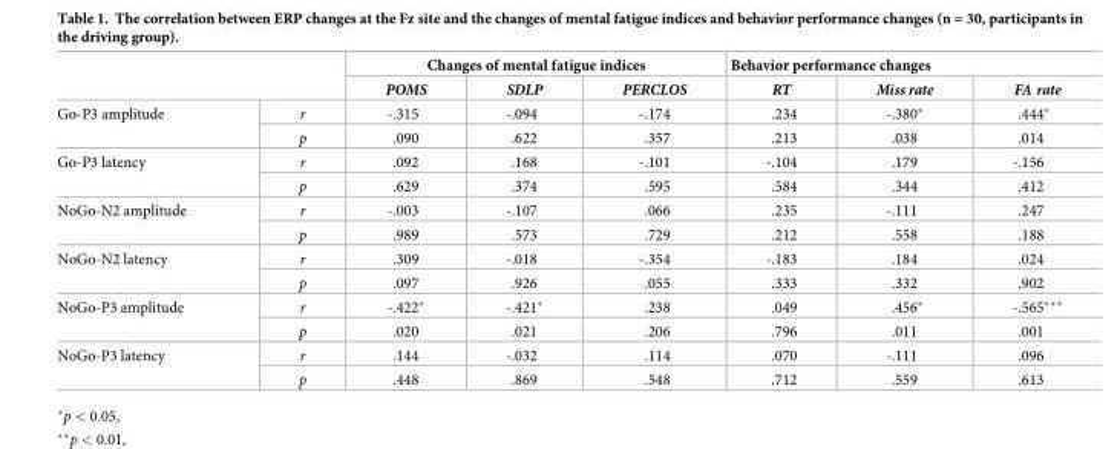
<table><thead><tr><td rowspan="2"></td><td rowspan="2"></td><td colspan="3">Changes of mental fatigue indices</td><td colspan="3">Behavior performance changes</td></tr><tr><td>POMS</td><td>SDLP</td><td>PERCLOS</td><td>RT</td><td>Miss rate</td><td>FA rate</td></tr></thead><tbody><tr><td rowspan="2">Go-P3 amplitude</td><td>r</td><td>-.315</td><td>-.094</td><td>-.174</td><td>.234</td><td>-.380*</td><td>.444*</td></tr><tr><td>p</td><td>.090</td><td>.622</td><td>.357</td><td>.213</td><td>.038</td><td>.014</td></tr><tr><td rowspan="2">Go-P3 latency</td><td>r</td><td>.092</td><td>.168</td><td>-.101</td><td>-.104</td><td>.179</td><td>-.156</td></tr><tr><td>p</td><td>.629</td><td>.374</td><td>.595</td><td>.584</td><td>.344</td><td>.412</td></tr><tr><td rowspan="2">NoGo-N2 amplitude</td><td>r</td><td>-.003</td><td>-.107</td><td>.066</td><td>.235</td><td>-.111</td><td>.247</td></tr><tr><td>p</td><td>.989</td><td>.573</td><td>.729</td><td>.212</td><td>.558</td><td>.188</td></tr><tr><td rowspan="2">NoGo-N2 latency</td><td>r</td><td>.309</td><td>-.018</td><td>-.354</td><td>-.183</td><td>.184</td><td>.024</td></tr><tr><td>p</td><td>.097</td><td>.926</td><td>.055</td><td>.333</td><td>.332</td><td>.902</td></tr><tr><td rowspan="2">NoGo-P3 amplitude</td><td>r</td><td>-.422*</td><td>-.421*</td><td>.238</td><td>.049</td><td>.456*</td><td>-.565***</td></tr><tr><td>p</td><td>.020</td><td>.021</td><td>.206</td><td>.796</td><td>.011</td><td>.001</td></tr><tr><td rowspan="2">NoGo-P3 latency</td><td>r</td><td>.144</td><td>-.032</td><td>.114</td><td>.070</td><td>-.111</td><td>.096</td></tr><tr><td>p</td><td>.448</td><td>.869</td><td>.548</td><td>.712</td><td>.559</td><td>.613</td></tr></tbody></table>